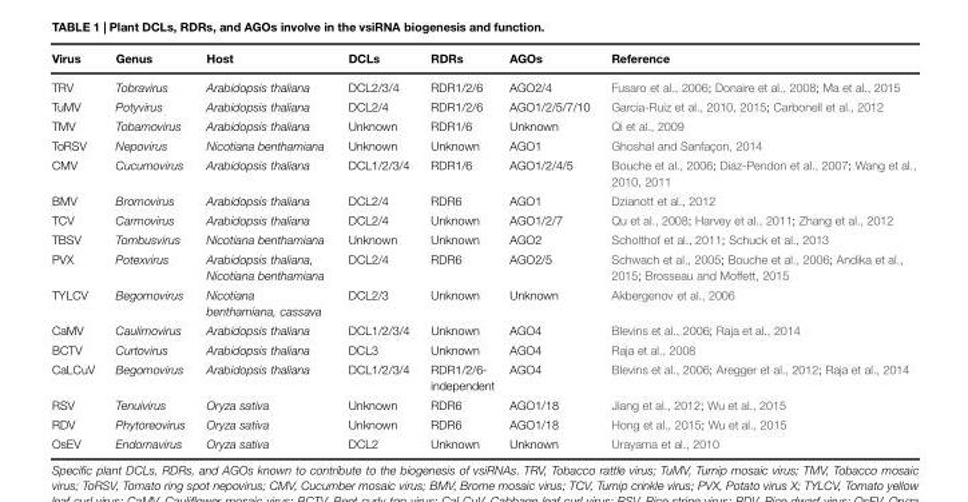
<table><thead><tr><td>Virus</td><td>Genus</td><td>Host</td><td>DCLs</td><td>RDRs</td><td>AGOs</td><td>Reference</td></tr></thead><tbody><tr><td>TRV</td><td>Tobravirus</td><td>Arabidopsis thaliana</td><td>DCL2/3/4</td><td>RDR1/2/6</td><td>AGO2/4</td><td>Fusaro et al., 2006; Donaire et al., 2008; Ma et al., 2015</td></tr><tr><td>TuMV</td><td>Potyvirus</td><td>Arabidopsis thaliana</td><td>DCL2/4</td><td>RDR1/2/6</td><td>AGO1/2/5/7/10</td><td>Garcia-Ruiz et al., 2010, 2015; Carbonell et al., 2012</td></tr><tr><td>TMV</td><td>Tobamovirus</td><td>Arabidopsis thaliana</td><td>Unknown</td><td>RDR1/6</td><td>Unknown</td><td>Qi et al., 2009</td></tr><tr><td>ToRSV</td><td>Nepovirus</td><td>Nicotiana benthamiana</td><td>Unknown</td><td>Unknown</td><td>AGO1</td><td>Ghoshal and Sanfaçon, 2014</td></tr><tr><td>CMV</td><td>Cucumovirus</td><td>Arabidopsis thaliana</td><td>DCL1/2/3/4</td><td>RDR1/6</td><td>AGO1/2/4/5</td><td>Bouche et al., 2006; Diaz-Pendon et al., 2007; Wang et al., 2010, 2011</td></tr><tr><td>BMV</td><td>Bromovirus</td><td>Arabidopsis thaliana</td><td>DCL2/4</td><td>RDR6</td><td>AGO1</td><td>Dzianott et al., 2012</td></tr><tr><td>TCV</td><td>Carmovirus</td><td>Arabidopsis thaliana</td><td>DCL2/4</td><td>Unknown</td><td>AGO1/2/7</td><td>Qu et al., 2008; Harvey et al., 2011; Zhang et al., 2012</td></tr><tr><td>TBSV</td><td>Tombusvirus</td><td>Nicotiana benthamiana</td><td>Unknown</td><td>Unknown</td><td>AGO2</td><td>Scholthof et al., 2011; Schuck et al., 2013</td></tr><tr><td>PVX</td><td>Potexvirus</td><td>Arabidopsis thaliana, Nicotiana benthamiana</td><td>DCL2/4</td><td>RDR6</td><td>AGO2/5</td><td>Schwach et al., 2005; Bouche et al., 2006; Andika et al., 2015; Brosseau and Moffett, 2015</td></tr><tr><td>TYLCV</td><td>Begomovirus</td><td>Nicotiana benthamiana, cassava</td><td>DCL2/3</td><td>Unknown</td><td>Unknown</td><td>Akbergenov et al., 2006</td></tr><tr><td>CaMV</td><td>Caulimovirus</td><td>Arabidopsis thaliana</td><td>DCL1/2/3/4</td><td>Unknown</td><td>AGO4</td><td>Blevins et al., 2006; Raja et al., 2014</td></tr><tr><td>BCTV</td><td>Curtovirus</td><td>Arabidopsis thaliana</td><td>DCL3</td><td>Unknown</td><td>AGO4</td><td>Raja et al., 2008</td></tr><tr><td>CaLCuV</td><td>Begomovirus</td><td>Arabidopsis thaliana</td><td>DCL1/2/3/4</td><td>RDR1/2/6- independent</td><td>AGO4</td><td>Blevins et al., 2006; Aregger et al., 2012; Raja et al., 2014</td></tr><tr><td>RSV</td><td>Tenuivirus</td><td>Oryza sativa</td><td>Unknown</td><td>RDR6</td><td>AGO1/18</td><td>Jiang et al., 2012; Wu et al., 2015</td></tr><tr><td>RDV</td><td>Phytoreovirus</td><td>Oryza sativa</td><td>Unknown</td><td>RDR6</td><td>AGO1/18</td><td>Hong et al., 2015; Wu et al., 2015</td></tr><tr><td>OsEV</td><td>Endornavirus</td><td>Oryza sativa</td><td>DCL2</td><td>Unknown</td><td>Unknown</td><td>Urayama et al., 2010</td></tr></tbody></table>